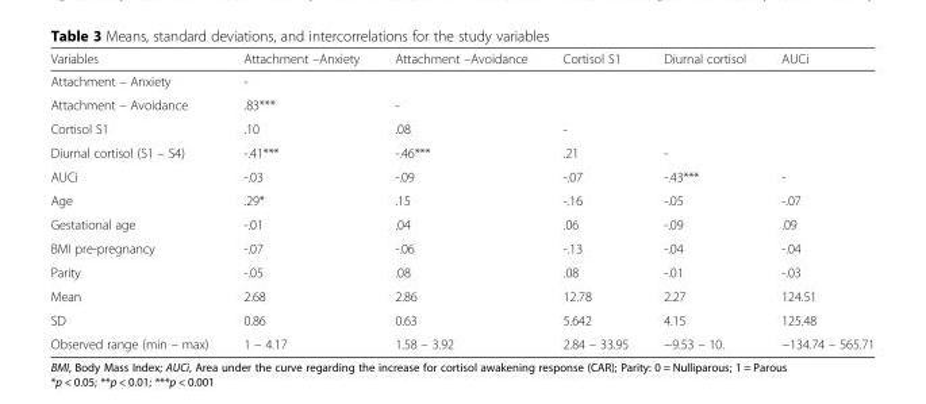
<table><thead><tr><td>Variables</td><td>Attachment –Anxiety</td><td>Attachment –Avoidance</td><td>Cortisol S1</td><td>Diurnal cortisol</td><td>AUCi</td></tr></thead><tbody><tr><td>Attachment – Anxiety</td><td>-</td><td></td><td></td><td></td><td></td></tr><tr><td>Attachment – Avoidance</td><td>.83***</td><td>-</td><td></td><td></td><td></td></tr><tr><td>Cortisol S1</td><td>.10</td><td>.08</td><td>-</td><td></td><td></td></tr><tr><td>Diurnal cortisol (S1 – S4)</td><td>-.41***</td><td>-.46***</td><td>.21</td><td>-</td><td></td></tr><tr><td>AUCi</td><td>-.03</td><td>-.09</td><td>-.07</td><td>-.43***</td><td>-</td></tr><tr><td>Age</td><td>.29*</td><td>.15</td><td>-.16</td><td>-.05</td><td>-.07</td></tr><tr><td>Gestational age</td><td>-.01</td><td>.04</td><td>.06</td><td>-.09</td><td>.09</td></tr><tr><td>BMI pre-pregnancy</td><td>-.07</td><td>-.06</td><td>-.13</td><td>-.04</td><td>-.04</td></tr><tr><td>Parity</td><td>-.05</td><td>.08</td><td>.08</td><td>-.01</td><td>-.03</td></tr><tr><td>Mean</td><td>2.68</td><td>2.86</td><td>12.78</td><td>2.27</td><td>124.51</td></tr><tr><td>SD</td><td>0.86</td><td>0.63</td><td>5.642</td><td>4.15</td><td>125.48</td></tr><tr><td>Observed range (min – max)</td><td>1 – 4.17</td><td>1.58 – 3.92</td><td>2.84 – 33.95</td><td>−9.53 – 10.</td><td>−134.74 – 565.71</td></tr></tbody></table>